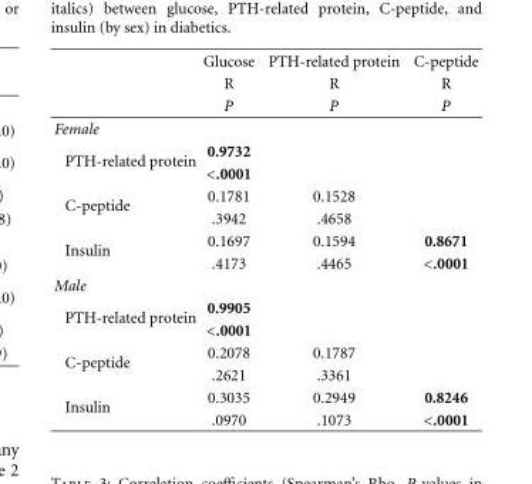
<table><thead><tr><td rowspan="3"></td><td rowspan="3">Glucose R P</td><td rowspan="3">PTH-related protein R P</td><td rowspan="3">C-peptide R P</td></tr><tr></tr><tr></tr></thead><tbody><tr><td colspan="4">Female</td></tr><tr><td rowspan="2">PTH-related protein</td><td>0.9732</td><td></td><td></td></tr><tr><td>&lt;.0001</td><td></td><td></td></tr><tr><td rowspan="2">C-peptide</td><td>0.1781</td><td>0.1528</td><td></td></tr><tr><td>.3942</td><td>.4658</td><td></td></tr><tr><td rowspan="2">Insulin</td><td>0.1697</td><td>0.1594</td><td>0.8671</td></tr><tr><td>.4173</td><td>.4465</td><td>&lt;.0001</td></tr><tr><td colspan="4">Male</td></tr><tr><td rowspan="2">PTH-related protein</td><td>0.9905</td><td></td><td></td></tr><tr><td>&lt;.0001</td><td></td><td></td></tr><tr><td rowspan="2">C-peptide</td><td>0.2078</td><td>0.1787</td><td></td></tr><tr><td>.2621</td><td>.3361</td><td></td></tr><tr><td rowspan="2">Insulin</td><td>0.3035</td><td>0.2949</td><td>0.8246</td></tr><tr><td>.0970</td><td>.1073</td><td>&lt;.0001</td></tr></tbody></table>